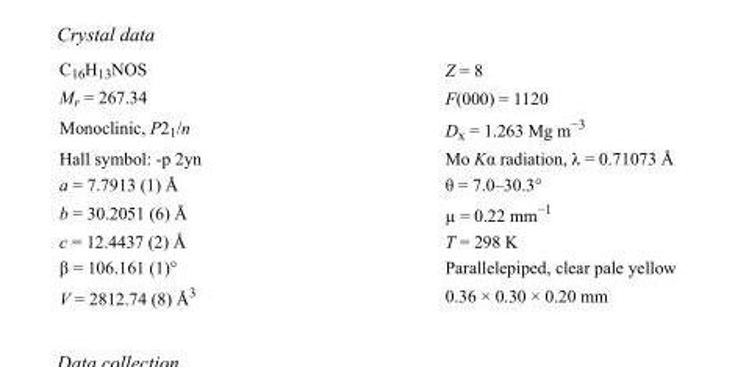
<table><tbody><tr><td>C<sub>16</sub>H<sub>13</sub>NOS</td><td>Z = 8</td></tr><tr><td>M<sub>r</sub> = 267.34</td><td>F(000) = 1120</td></tr><tr><td>Monoclinic, P2<sub>1</sub>/n</td><td>D<sub>x</sub> = 1.263 Mg m<sup>−3</sup></td></tr><tr><td>Hall symbol: -p 2yn</td><td>Mo Kα radiation, λ = 0.71073 Å</td></tr><tr><td>a = 7.7913 (1) Å</td><td>θ = 7.0–30.3°</td></tr><tr><td>b = 30.2051 (6) Å</td><td>µ = 0.22 mm<sup>−1</sup></td></tr><tr><td>c = 12.4437 (2) Å</td><td>T = 298 K</td></tr><tr><td>β = 106.161 (1)°</td><td>Parallelepiped, clear pale yellow</td></tr><tr><td>V = 2812.74 (8) Å<sup>3</sup></td><td>0.36 × 0.30 × 0.20 mm</td></tr></tbody></table>